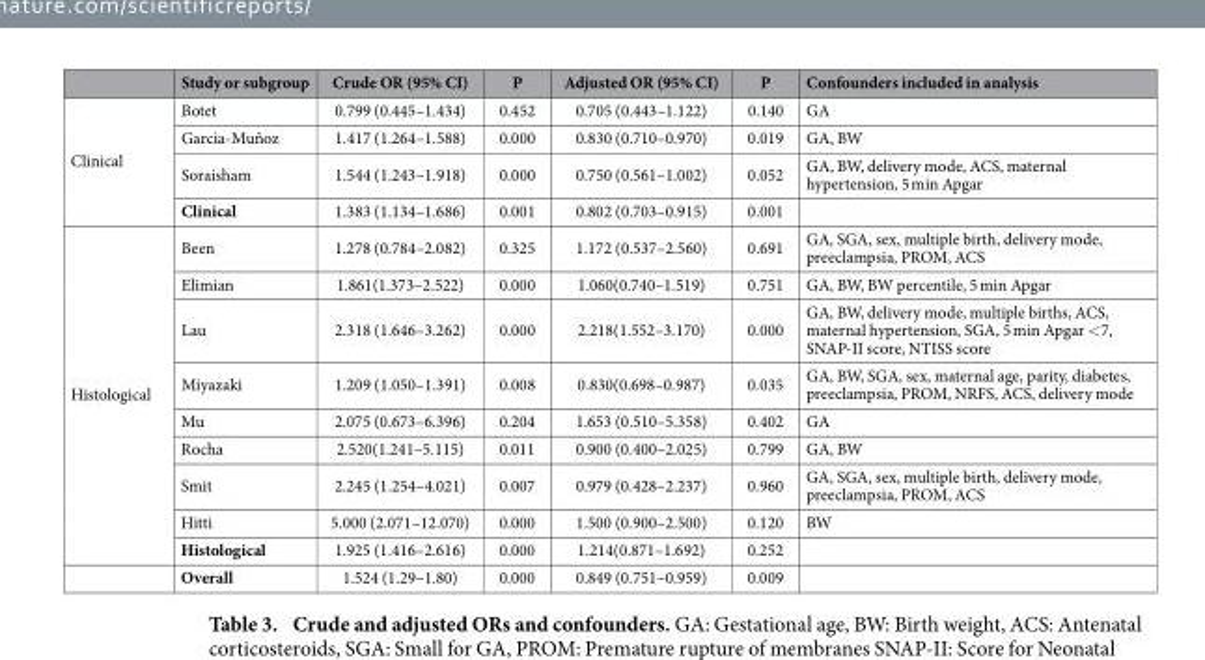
<table><thead><tr><td></td><td>Study or subgroup</td><td>Crude OR (95% CI)</td><td>P</td><td>Adjusted OR (95% CI)</td><td>P</td><td>Confounders included in analysis</td></tr></thead><tbody><tr><td rowspan="4">Clinical</td><td>Botet</td><td>0.799 (0.445–1.434)</td><td>0.452</td><td>0.705 (0.443–1.122)</td><td>0.140</td><td>GA</td></tr><tr><td>Garcia-Muñoz</td><td>1.417 (1.264–1.588)</td><td>0.000</td><td>0.830 (0.710–0.970)</td><td>0.019</td><td>GA, BW</td></tr><tr><td>Soraisham</td><td>1.544 (1.243–1.918)</td><td>0.000</td><td>0.750 (0.561–1.002)</td><td>0.052</td><td>GA, BW, delivery mode, ACS, maternal hypertension, 5 min Apgar</td></tr><tr><td>Clinical</td><td>1.383 (1.134–1.686)</td><td>0.001</td><td>0.802 (0.703–0.915)</td><td>0.001</td><td></td></tr><tr><td rowspan="10">Histological</td><td>Been</td><td>1.278 (0.784–2.082)</td><td>0.325</td><td>1.172 (0.537–2.560)</td><td>0.691</td><td>GA, SGA, sex, multiple birth, delivery mode, preeclampsia, PROM, ACS</td></tr><tr><td>Elimian</td><td>1.861(1.373–2.522)</td><td>0.000</td><td>1.060(0.740–1.519)</td><td>0.751</td><td>GA, BW, BW percentile, 5 min Apgar</td></tr><tr><td>Lau</td><td>2.318 (1.646–3.262)</td><td>0.000</td><td>2.218(1.552–3.170)</td><td>0.000</td><td>GA, BW, delivery mode, multiple births, ACS, maternal hypertension, SGA, 5 min Apgar &lt; 7, SNAP-II score, NTISS score</td></tr><tr><td>Miyazaki</td><td>1.209 (1.050–1.391)</td><td>0.008</td><td>0.830(0.698–0.987)</td><td>0.035</td><td>GA, BW, SGA, sex, maternal age, parity, diabetes, preeclampsia, PROM, NRFS, ACS, delivery mode</td></tr><tr><td>Mu</td><td>2.075 (0.673–6.396)</td><td>0.204</td><td>1.653 (0.510–5.358)</td><td>0.402</td><td>GA</td></tr><tr><td>Rocha</td><td>2.520(1.241–5.115)</td><td>0.011</td><td>0.900 (0.400–2.025)</td><td>0.799</td><td>GA, BW</td></tr><tr><td>Smit</td><td>2.245 (1.254–4.021)</td><td>0.007</td><td>0.979 (0.428–2.237)</td><td>0.960</td><td>GA, SGA, sex, multiple birth, delivery mode, preeclampsia, PROM, ACS</td></tr><tr><td>Hitti</td><td>5.000 (2.071–12.070)</td><td>0.000</td><td>1.500 (0.900–2.500)</td><td>0.120</td><td>BW</td></tr><tr><td>Histological</td><td>1.925 (1.416–2.616)</td><td>0.000</td><td>1.214(0.871–1.692)</td><td>0.252</td><td></td></tr><tr><td>Overall</td><td>1.524 (1.29–1.80)</td><td>0.000</td><td>0.849 (0.751–0.959)</td><td>0.009</td><td></td></tr></tbody></table>